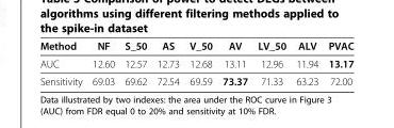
<table><thead><tr><td>Method</td><td>NF</td><td>S_50</td><td>AS</td><td>V_50</td><td>AV</td><td>LV_50</td><td>ALV</td><td>PVAC</td></tr></thead><tbody><tr><td>AUC</td><td>12.60</td><td>12.57</td><td>12.73</td><td>12.68</td><td>13.11</td><td>12.96</td><td>11.94</td><td>13.17</td></tr><tr><td>Sensitivity</td><td>69.03</td><td>69.62</td><td>72.54</td><td>69.59</td><td>73.37</td><td>71.33</td><td>63.23</td><td>72.00</td></tr></tbody></table>